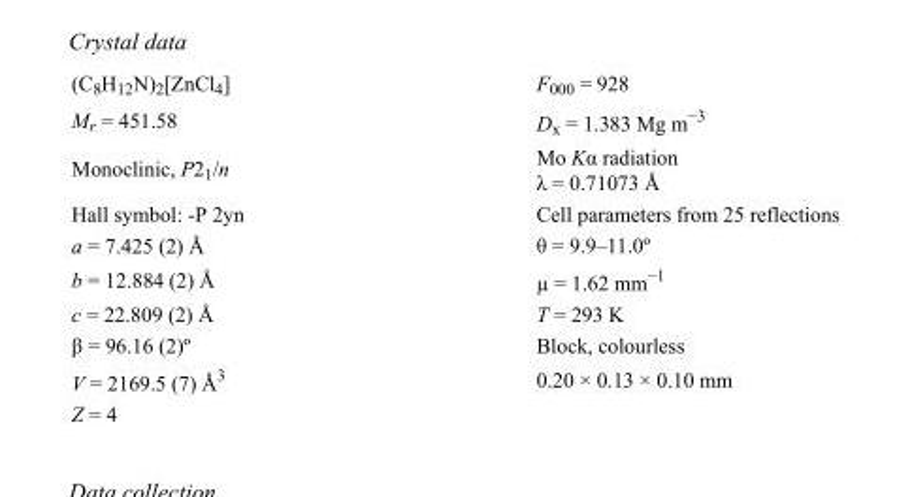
<table><tbody><tr><td>(C<sub>8</sub>H<sub>12</sub>N)<sub>2</sub>[ZnCl<sub>4</sub>]</td><td>F000 = 928</td></tr><tr><td>M<sub>r</sub> = 451.58</td><td>D<sub>x</sub> = 1.383 Mg m<sup>−3</sup></td></tr><tr><td>Monoclinic, P2<sub>1</sub>/n</td><td>Mo Kα radiation λ = 0.71073 Å</td></tr><tr><td>Hall symbol: -P 2yn</td><td>Cell parameters from 25 reflections</td></tr><tr><td>a = 7.425 (2) Å</td><td>θ = 9.9–11.0º</td></tr><tr><td>b = 12.884 (2) Å</td><td>µ = 1.62 mm<sup>−1</sup></td></tr><tr><td>c = 22.809 (2) Å</td><td>T = 293 K</td></tr><tr><td>β = 96.16 (2)º</td><td>Block, colourless</td></tr><tr><td>V = 2169.5 (7) Å<sup>3</sup></td><td>0.20 × 0.13 × 0.10 mm</td></tr><tr><td>Z = 4</td><td></td></tr></tbody></table>